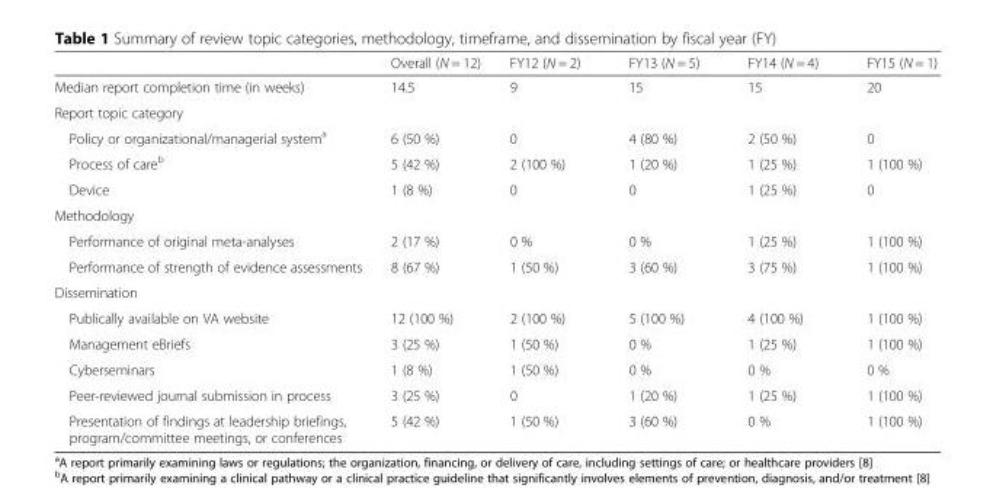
<table><thead><tr><td></td><td>Overall (N = 12)</td><td>FY12 (N = 2)</td><td>FY13 (N = 5)</td><td>FY14 (N = 4)</td><td>FY15 (N = 1)</td></tr></thead><tbody><tr><td>Median report completion time (in weeks)</td><td>14.5</td><td>9</td><td>15</td><td>15</td><td>20</td></tr><tr><td colspan="6">Report topic category</td></tr><tr><td>Policy or organizational/managerial system<sup>a</sup></td><td>6 (50 %)</td><td>0</td><td>4 (80 %)</td><td>2 (50 %)</td><td>0</td></tr><tr><td>Process of care<sup>b</sup></td><td>5 (42 %)</td><td>2 (100 %)</td><td>1 (20 %)</td><td>1 (25 %)</td><td>1 (100 %)</td></tr><tr><td>Device</td><td>1 (8 %)</td><td>0</td><td>0</td><td>1 (25 %)</td><td>0</td></tr><tr><td colspan="6">Methodology</td></tr><tr><td>Performance of original meta-analyses</td><td>2 (17 %)</td><td>0 %</td><td>0 %</td><td>1 (25 %)</td><td>1 (100 %)</td></tr><tr><td>Performance of strength of evidence assessments</td><td>8 (67 %)</td><td>1 (50 %)</td><td>3 (60 %)</td><td>3 (75 %)</td><td>1 (100 %)</td></tr><tr><td colspan="6">Dissemination</td></tr><tr><td>Publically available on VA website</td><td>12 (100 %)</td><td>2 (100 %)</td><td>5 (100 %)</td><td>4 (100 %)</td><td>1 (100 %)</td></tr><tr><td>Management eBriefs</td><td>3 (25 %)</td><td>1 (50 %)</td><td>0 %</td><td>1 (25 %)</td><td>1 (100 %)</td></tr><tr><td>Cyberseminars</td><td>1 (8 %)</td><td>1 (50 %)</td><td>0 %</td><td>0 %</td><td>0 %</td></tr><tr><td>Peer-reviewed journal submission in process</td><td>3 (25 %)</td><td>0</td><td>1 (20 %)</td><td>1 (25 %)</td><td>1 (100 %)</td></tr><tr><td>Presentation of findings at leadership briefings, program/committee meetings, or conferences</td><td>5 (42 %)</td><td>1 (50 %)</td><td>3 (60 %)</td><td>0 %</td><td>1 (100 %)</td></tr></tbody></table>